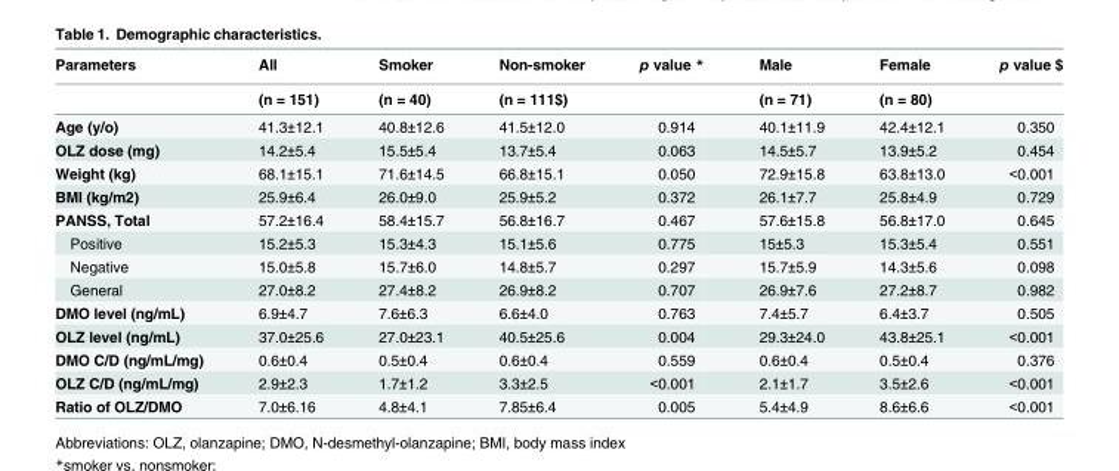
<table><thead><tr><td rowspan="2">Parameters</td><td rowspan="2">All (n = 151)</td><td rowspan="2">Smoker (n = 40)</td><td rowspan="2">Non-smoker (n = 111$)</td><td rowspan="2">p value *</td><td rowspan="2">Male (n = 71)</td><td rowspan="2">Female (n = 80)</td><td rowspan="2">p value $</td></tr><tr></tr></thead><tbody><tr><td>Age (y/o)</td><td>41.3±12.1</td><td>40.8±12.6</td><td>41.5±12.0</td><td>0.914</td><td>40.1±11.9</td><td>42.4±12.1</td><td>0.350</td></tr><tr><td>OLZ dose (mg)</td><td>14.2±5.4</td><td>15.5±5.4</td><td>13.7±5.4</td><td>0.063</td><td>14.5±5.7</td><td>13.9±5.2</td><td>0.454</td></tr><tr><td>Weight (kg)</td><td>68.1±15.1</td><td>71.6±14.5</td><td>66.8±15.1</td><td>0.050</td><td>72.9±15.8</td><td>63.8±13.0</td><td>&lt;0.001</td></tr><tr><td>BMI (kg/m2)</td><td>25.9±6.4</td><td>26.0±9.0</td><td>25.9±5.2</td><td>0.372</td><td>26.1±7.7</td><td>25.8±4.9</td><td>0.729</td></tr><tr><td>PANSS, Total</td><td>57.2±16.4</td><td>58.4±15.7</td><td>56.8±16.7</td><td>0.467</td><td>57.6±15.8</td><td>56.8±17.0</td><td>0.645</td></tr><tr><td>Positive</td><td>15.2±5.3</td><td>15.3±4.3</td><td>15.1±5.6</td><td>0.775</td><td>15±5.3</td><td>15.3±5.4</td><td>0.551</td></tr><tr><td>Negative</td><td>15.0±5.8</td><td>15.7±6.0</td><td>14.8±5.7</td><td>0.297</td><td>15.7±5.9</td><td>14.3±5.6</td><td>0.098</td></tr><tr><td>General</td><td>27.0±8.2</td><td>27.4±8.2</td><td>26.9±8.2</td><td>0.707</td><td>26.9±7.6</td><td>27.2±8.7</td><td>0.982</td></tr><tr><td>DMO level (ng/mL)</td><td>6.9±4.7</td><td>7.6±6.3</td><td>6.6±4.0</td><td>0.763</td><td>7.4±5.7</td><td>6.4±3.7</td><td>0.505</td></tr><tr><td>OLZ level (ng/mL)</td><td>37.0±25.6</td><td>27.0±23.1</td><td>40.5±25.6</td><td>0.004</td><td>29.3±24.0</td><td>43.8±25.1</td><td>&lt;0.001</td></tr><tr><td>DMO C/D (ng/mL/mg)</td><td>0.6±0.4</td><td>0.5±0.4</td><td>0.6±0.4</td><td>0.559</td><td>0.6±0.4</td><td>0.5±0.4</td><td>0.376</td></tr><tr><td>OLZ C/D (ng/mL/mg)</td><td>2.9±2.3</td><td>1.7±1.2</td><td>3.3±2.5</td><td>&lt;0.001</td><td>2.1±1.7</td><td>3.5±2.6</td><td>&lt;0.001</td></tr><tr><td>Ratio of OLZ/DMO</td><td>7.0±6.16</td><td>4.8±4.1</td><td>7.85±6.4</td><td>0.005</td><td>5.4±4.9</td><td>8.6±6.6</td><td>&lt;0.001</td></tr></tbody></table>